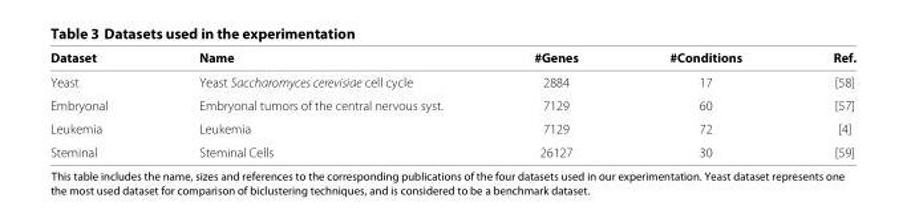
<table><thead><tr><td>Dataset</td><td>Name</td><td>#Genes</td><td>#Conditions</td><td>Ref.</td></tr></thead><tbody><tr><td>Yeast</td><td>Yeast Saccharomyces cerevisiae cell cycle</td><td>2884</td><td>17</td><td>[58]</td></tr><tr><td>Embryonal</td><td>Embryonal tumors of the central nervous syst.</td><td>7129</td><td>60</td><td>[57]</td></tr><tr><td>Leukemia</td><td>Leukemia</td><td>7129</td><td>72</td><td>[4]</td></tr><tr><td>Steminal</td><td>Steminal Cells</td><td>26127</td><td>30</td><td>[59]</td></tr></tbody></table>